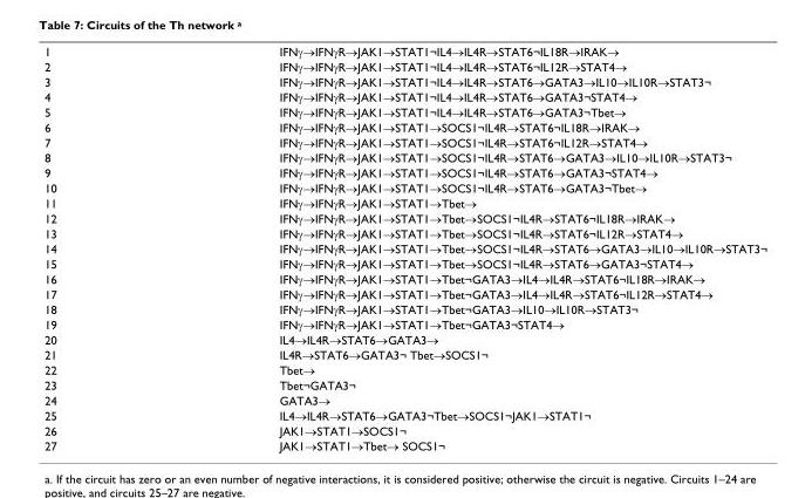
<table><tbody><tr><td>1</td><td>IFNγ→IFNγR→JAK1→STAT1¬IL4→IL4R→STAT6¬IL18R→IRAK→</td></tr><tr><td>2</td><td>IFNγ→IFNγR→JAK1→STAT1¬IL4→IL4R→STAT6¬IL12R→STAT4→</td></tr><tr><td>3</td><td>IFNγ→IFNγR→JAK1→STAT1¬IL4→IL4R→STAT6→GATA3→IL10→IL10R→STAT3¬</td></tr><tr><td>4</td><td>IFNγ→IFNγR→JAK1→STAT1¬IL4→IL4R→STAT6→GATA3¬STAT4→</td></tr><tr><td>5</td><td>IFNγ→IFNγR→JAK1→STAT1¬IL4→IL4R→STAT6→GATA3¬Tbet→</td></tr><tr><td>6</td><td>IFNγ→IFNγR→JAK1→STAT1→SOCS1¬IL4R→STAT6¬IL18R→IRAK→</td></tr><tr><td>7</td><td>IFNγ→IFNγR→JAK1→STAT1→SOCS1¬IL4R→STAT6¬IL12R→STAT4→</td></tr><tr><td>8</td><td>IFNγ→IFNγR→JAK1→STAT1→SOCS1¬IL4R→STAT6→GATA3→IL10→IL10R→STAT3¬</td></tr><tr><td>9</td><td>IFNγ→IFNγR→JAK1→STAT1→SOCS1¬IL4R→STAT6→GATA3¬STAT4→</td></tr><tr><td>10</td><td>IFNγ→IFNγR→JAK1→STAT1→SOCS1¬IL4R→STAT6→GATA3¬Tbet→</td></tr><tr><td>11</td><td>IFNγ→IFNγR→JAK1→STAT1→Tbet→</td></tr><tr><td>12</td><td>IFNγ→IFNγR→JAK1→STAT1→Tbet→SOCS1¬IL4R→STAT6¬IL18R→IRAK→</td></tr><tr><td>13</td><td>IFNγ→IFNγR→JAK1→STAT1→Tbet→SOCS1¬IL4R→STAT6¬IL12R→STAT4→</td></tr><tr><td>14</td><td>IFNγ→IFNγR→JAK1→STAT1→Tbet→SOCS1¬IL4R→STAT6→GATA3→IL10→IL10R→STAT3¬</td></tr><tr><td>15</td><td>IFNγ→IFNγR→JAK1→STAT1→Tbet→SOCS1¬IL4R→STAT6→GATA3¬STAT4→</td></tr><tr><td>16</td><td>IFNγ→IFNγR→JAK1→STAT1→Tbet¬GATA3→IL4→IL4R→STAT6¬IL18R→IRAK→</td></tr><tr><td>17</td><td>IFNγ→IFNγR→JAK1→STAT1→Tbet¬GATA3→IL4→IL4R→STAT6¬IL12R→STAT4→</td></tr><tr><td>18</td><td>IFNγ→IFNγR→JAK1→STAT1→Tbet¬GATA3→IL10→IL10R→STAT3¬</td></tr><tr><td>19</td><td>IFNγ→IFNγR→JAK1→STAT1→Tbet¬GATA3¬STAT4→</td></tr><tr><td>20</td><td>IL4→IL4R→STAT6→GATA3→</td></tr><tr><td>21</td><td>IL4R→STAT6→GATA3¬ Tbet→SOCS1¬</td></tr><tr><td>22</td><td>Tbet→</td></tr><tr><td>23</td><td>Tbet¬GATA3¬</td></tr><tr><td>24</td><td>GATA3→</td></tr><tr><td>25</td><td>IL4→IL4R→STAT6→GATA3¬Tbet→SOCS1¬JAK1→STAT1¬</td></tr><tr><td>26</td><td>JAK1→STAT1→SOCS1¬</td></tr><tr><td>27</td><td>JAK1→STAT1→Tbet→ SOCS1¬</td></tr></tbody></table>